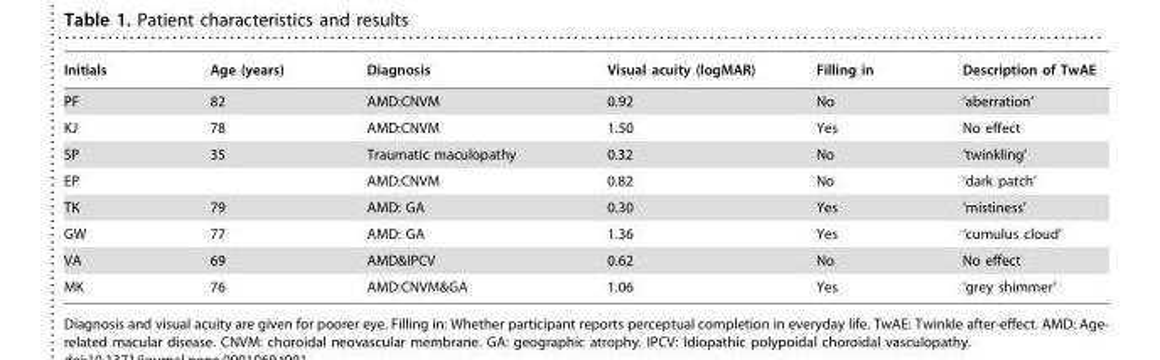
<table><thead><tr><td>Initials</td><td>Age (years)</td><td>Diagnosis</td><td>Visual acuity (logMAR)</td><td>Filling in</td><td>Description of TwAE</td></tr></thead><tbody><tr><td>PF</td><td>82</td><td>AMD:CNVM</td><td>0.92</td><td>No</td><td>‘aberration’</td></tr><tr><td>KJ</td><td>78</td><td>AMD:CNVM</td><td>1.50</td><td>Yes</td><td>No effect</td></tr><tr><td>SP</td><td>35</td><td>Traumatic maculopathy</td><td>0.32</td><td>No</td><td>‘twinkling’</td></tr><tr><td>EP</td><td></td><td>AMD:CNVM</td><td>0.82</td><td>No</td><td>‘dark patch’</td></tr><tr><td>TK</td><td>79</td><td>AMD: GA</td><td>0.30</td><td>Yes</td><td>‘mistiness’</td></tr><tr><td>GW</td><td>77</td><td>AMD: GA</td><td>1.36</td><td>Yes</td><td>‘cumulus cloud’</td></tr><tr><td>VA</td><td>69</td><td>AMD&amp;IPCV</td><td>0.62</td><td>No</td><td>No effect</td></tr><tr><td>MK</td><td>76</td><td>AMD:CNVM&amp;GA</td><td>1.06</td><td>Yes</td><td>‘grey shimmer’</td></tr></tbody></table>